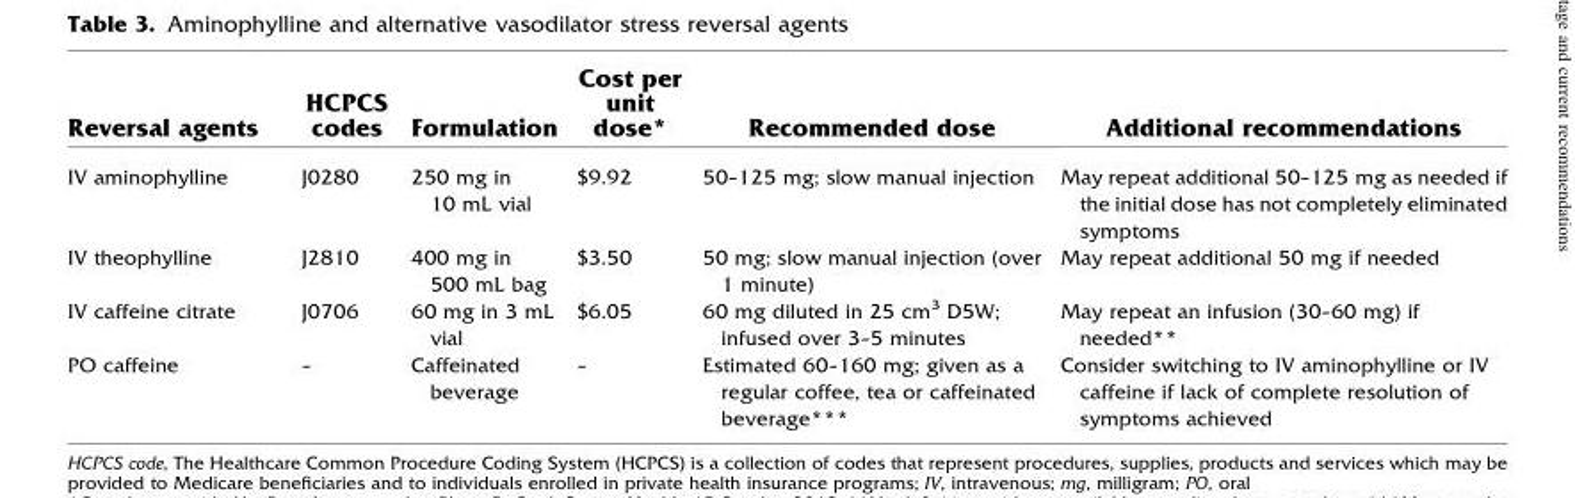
<table><thead><tr><td>Reversal agents</td><td>HCPCS codes</td><td>Formulation</td><td>Cost per unit dose*</td><td>Recommended dose</td><td>Additional recommendations</td></tr></thead><tbody><tr><td>IV aminophylline</td><td>J0280</td><td>250 mg in 10 mL vial</td><td>$9.92</td><td>50–125 mg; slow manual injection</td><td>May repeat additional 50–125 mg as needed if the initial dose has not completely eliminated symptoms</td></tr><tr><td>IV theophylline</td><td>J2810</td><td>400 mg in 500 mL bag</td><td>$3.50</td><td>50 mg; slow manual injection (over 1 minute)</td><td>May repeat additional 50 mg if needed</td></tr><tr><td>IV caffeine citrate</td><td>J0706</td><td>60 mg in 3 mL vial</td><td>$6.05</td><td>60 mg diluted in 25 cm<sup>3</sup> D5W; infused over 3–5 minutes</td><td>May repeat an infusion (30–60 mg) if needed**</td></tr><tr><td>PO caffeine</td><td>–</td><td>Caffeinated beverage</td><td>–</td><td>Estimated 60–160 mg; given as a regular coffee, tea or caffeinated beverage***</td><td>Consider switching to IV aminophylline or IV caffeine if lack of complete resolution of symptoms achieved</td></tr></tbody></table>